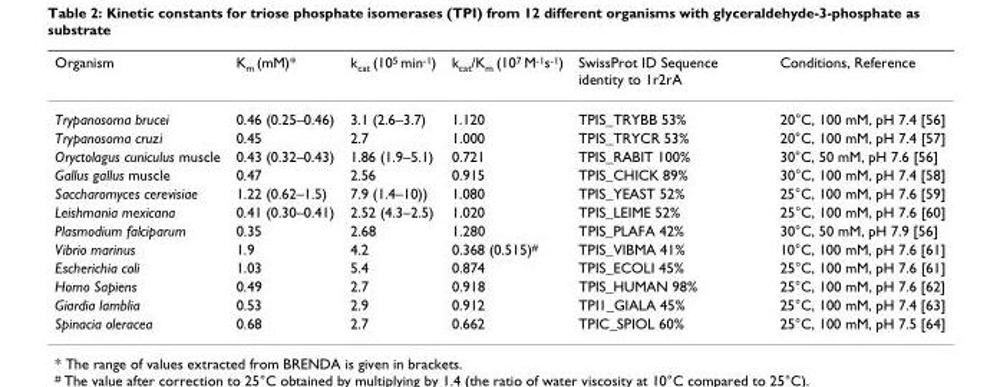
<table><thead><tr><td>Organism</td><td>K<sub>m</sub> (mM)*</td><td>k<sub>cat</sub> (10<sup>5</sup> min<sup>-1</sup>)</td><td>k<sub>cat</sub>/K<sub>m</sub> (10<sup>7</sup> M<sup>-1</sup>s<sup>-1</sup>)</td><td>SwissProt ID Sequence identity to 1r2rA</td><td>Conditions, Reference</td></tr></thead><tbody><tr><td>Trypanosoma brucei</td><td>0.46 (0.25–0.46)</td><td>3.1 (2.6–3.7)</td><td>1.120</td><td>TPIS_TRYBB 53%</td><td>20°C, 100 mM, pH 7.4 [56]</td></tr><tr><td>Trypanosoma cruzi</td><td>0.45</td><td>2.7</td><td>1.000</td><td>TPIS_TRYCR 53%</td><td>20°C, 100 mM, pH 7.4 [57]</td></tr><tr><td>Oryctolagus cuniculus muscle</td><td>0.43 (0.32–0.43)</td><td>1.86 (1.9–5.1)</td><td>0.721</td><td>TPIS_RABIT 100%</td><td>30°C, 50 mM, pH 7.6 [56]</td></tr><tr><td>Gallus gallus muscle</td><td>0.47</td><td>2.56</td><td>0.915</td><td>TPIS_CHICK 89%</td><td>30°C, 100 mM, pH 7.4 [58]</td></tr><tr><td>Saccharomyces cerevisiae</td><td>1.22 (0.62–1.5)</td><td>7.9 (1.4–10))</td><td>1.080</td><td>TPIS_YEAST 52%</td><td>25°C, 100 mM, pH 7.6 [59]</td></tr><tr><td>Leishmania mexicana</td><td>0.41 (0.30–0.41)</td><td>2.52 (4.3–2.5)</td><td>1.020</td><td>TPIS_LEIME 52%</td><td>25°C, 100 mM, pH 7.6 [60]</td></tr><tr><td>Plasmodium falciparum</td><td>0.35</td><td>2.68</td><td>1.280</td><td>TPIS_PLAFA 42%</td><td>30°C, 50 mM, pH 7.9 [56]</td></tr><tr><td>Vibrio marinus</td><td>1.9</td><td>4.2</td><td>0.368 (0.515)<sup>#</sup></td><td>TPIS_VIBMA 41%</td><td>10°C, 100 mM, pH 7.6 [61]</td></tr><tr><td>Escherichia coli</td><td>1.03</td><td>5.4</td><td>0.874</td><td>TPIS_ECOLI 45%</td><td>25°C, 100 mM, pH 7.6 [61]</td></tr><tr><td>Homo Sapiens</td><td>0.49</td><td>2.7</td><td>0.918</td><td>TPIS_HUMAN 98%</td><td>25°C, 100 mM, pH 7.6 [62]</td></tr><tr><td>Giardia lamblia</td><td>0.53</td><td>2.9</td><td>0.912</td><td>TPI1_GIALA 45%</td><td>25°C, 100 mM, pH 7.4 [63]</td></tr><tr><td>Spinacia oleracea</td><td>0.68</td><td>2.7</td><td>0.662</td><td>TPIC_SPIOL 60%</td><td>25°C, 100 mM, pH 7.5 [64]</td></tr></tbody></table>